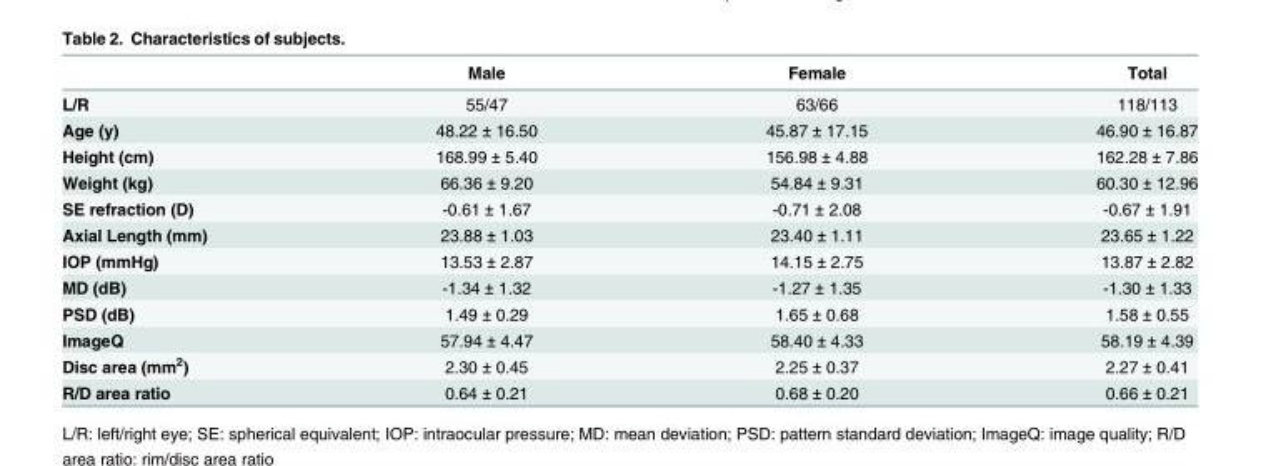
<table><thead><tr><td></td><td>Male</td><td>Female</td><td>Total</td></tr></thead><tbody><tr><td>L/R</td><td>55/47</td><td>63/66</td><td>118/113</td></tr><tr><td>Age (y)</td><td>48.22 ± 16.50</td><td>45.87 ± 17.15</td><td>46.90 ± 16.87</td></tr><tr><td>Height (cm)</td><td>168.99 ± 5.40</td><td>156.98 ± 4.88</td><td>162.28 ± 7.86</td></tr><tr><td>Weight (kg)</td><td>66.36 ± 9.20</td><td>54.84 ± 9.31</td><td>60.30 ± 12.96</td></tr><tr><td>SE refraction (D)</td><td>-0.61 ± 1.67</td><td>-0.71 ± 2.08</td><td>-0.67 ± 1.91</td></tr><tr><td>Axial Length (mm)</td><td>23.88 ± 1.03</td><td>23.40 ± 1.11</td><td>23.65 ± 1.22</td></tr><tr><td>IOP (mmHg)</td><td>13.53 ± 2.87</td><td>14.15 ± 2.75</td><td>13.87 ± 2.82</td></tr><tr><td>MD (dB)</td><td>-1.34 ± 1.32</td><td>-1.27 ± 1.35</td><td>-1.30 ± 1.33</td></tr><tr><td>PSD (dB)</td><td>1.49 ± 0.29</td><td>1.65 ± 0.68</td><td>1.58 ± 0.55</td></tr><tr><td>ImageQ</td><td>57.94 ± 4.47</td><td>58.40 ± 4.33</td><td>58.19 ± 4.39</td></tr><tr><td>Disc area (mm<sup>2</sup>)</td><td>2.30 ± 0.45</td><td>2.25 ± 0.37</td><td>2.27 ± 0.41</td></tr><tr><td>R/D area ratio</td><td>0.64 ± 0.21</td><td>0.68 ± 0.20</td><td>0.66 ± 0.21</td></tr></tbody></table>